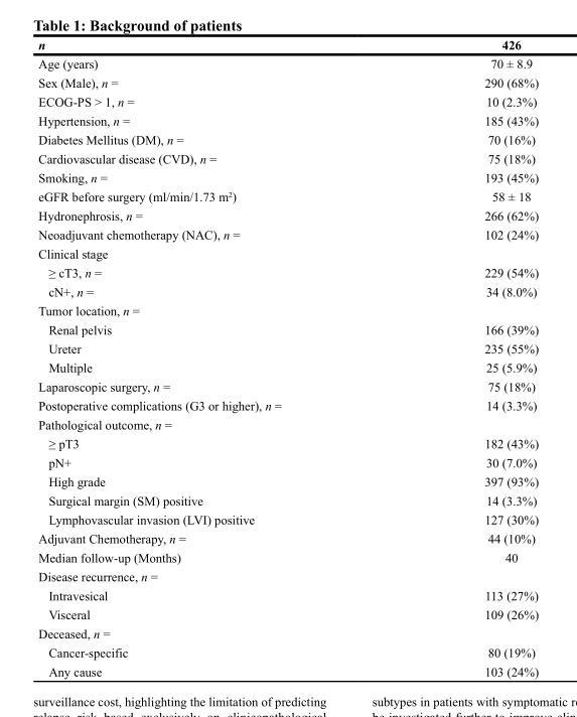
<table><thead><tr><td>n</td><td>426</td></tr></thead><tbody><tr><td>Age (years)</td><td>70 ± 8.9</td></tr><tr><td>Sex (Male), n =</td><td>290 (68%)</td></tr><tr><td>ECOG-PS &gt; 1, n =</td><td>10 (2.3%)</td></tr><tr><td>Hypertension, n =</td><td>185 (43%)</td></tr><tr><td>Diabetes Mellitus (DM), n =</td><td>70 (16%)</td></tr><tr><td>Cardiovascular disease (CVD), n =</td><td>75 (18%)</td></tr><tr><td>Smoking, n =</td><td>193 (45%)</td></tr><tr><td>eGFR before surgery (ml/min/1.73 m<sup>2</sup>)</td><td>58 ± 18</td></tr><tr><td>Hydronephrosis, n =</td><td>266 (62%)</td></tr><tr><td>Neoadjuvant chemotherapy (NAC), n =</td><td>102 (24%)</td></tr><tr><td colspan="2">Clinical stage</td></tr><tr><td>≥ cT3, n =</td><td>229 (54%)</td></tr><tr><td>cN+, n =</td><td>34 (8.0%)</td></tr><tr><td colspan="2">Tumor location, n =</td></tr><tr><td>Renal pelvis</td><td>166 (39%)</td></tr><tr><td>Ureter</td><td>235 (55%)</td></tr><tr><td>Multiple</td><td>25 (5.9%)</td></tr><tr><td>Laparoscopic surgery, n =</td><td>75 (18%)</td></tr><tr><td>Postoperative complications (G3 or higher), n =</td><td>14 (3.3%)</td></tr><tr><td colspan="2">Pathological outcome, n =</td></tr><tr><td>≥ pT3</td><td>182 (43%)</td></tr><tr><td>pN+</td><td>30 (7.0%)</td></tr><tr><td>High grade</td><td>397 (93%)</td></tr><tr><td>Surgical margin (SM) positive</td><td>14 (3.3%)</td></tr><tr><td>Lymphovascular invasion (LVI) positive</td><td>127 (30%)</td></tr><tr><td>Adjuvant Chemotherapy, n =</td><td>44 (10%)</td></tr><tr><td>Median follow-up (Months)</td><td>40</td></tr><tr><td colspan="2">Disease recurrence, n =</td></tr><tr><td>Intravesical</td><td>113 (27%)</td></tr><tr><td>Visceral</td><td>109 (26%)</td></tr><tr><td colspan="2">Deceased, n =</td></tr><tr><td>Cancer-specific</td><td>80 (19%)</td></tr><tr><td>Any cause</td><td>103 (24%)</td></tr></tbody></table>